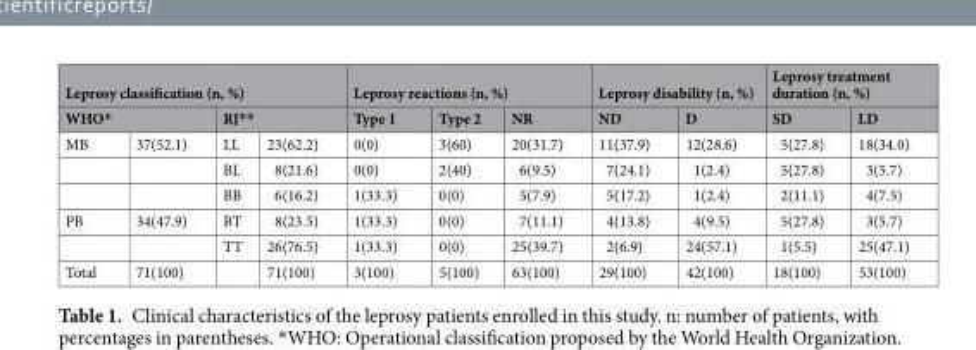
<table><thead><tr><td colspan="4">Leprosy classification (n, %)</td><td colspan="3">Leprosy reactions (n, %)</td><td colspan="2">Leprosy disability (n, %)</td><td colspan="2">Leprosy treatment duration (n, %)</td></tr><tr><td colspan="2">WHO*</td><td colspan="2">RJ**</td><td rowspan="2">Type 1 0(0)</td><td rowspan="2">Type 2 3(60)</td><td rowspan="2">NR 20(31.7)</td><td rowspan="2">ND 11(37.9)</td><td rowspan="2">D 12(28.6)</td><td rowspan="2">SD 5(27.8)</td><td rowspan="2">LD 18(34.0)</td></tr><tr><td>MB</td><td>37(52.1)</td><td>LL</td><td>23(62.2)</td></tr></thead><tbody><tr><td></td><td></td><td>BL</td><td>8(21.6)</td><td>0(0)</td><td>2(40)</td><td>6(9.5)</td><td>7(24.1)</td><td>1(2.4)</td><td>5(27.8)</td><td>3(5.7)</td></tr><tr><td></td><td></td><td>BB</td><td>6(16.2)</td><td>1(33.3)</td><td>0(0)</td><td>5(7.9)</td><td>5(17.2)</td><td>1(2.4)</td><td>2(11.1)</td><td>4(7.5)</td></tr><tr><td rowspan="2">PB</td><td>34(47.9)</td><td>BT</td><td>8(23.5)</td><td>1(33.3)</td><td>0(0)</td><td>7(11.1)</td><td>4(13.8)</td><td>4(9.5)</td><td>5(27.8)</td><td>3(5.7)</td></tr><tr><td></td><td>TT</td><td>26(76.5)</td><td>1(33.3)</td><td>0(0)</td><td>25(39.7)</td><td>2(6.9)</td><td>24(57.1)</td><td>1(5.5)</td><td>25(47.1)</td></tr><tr><td>Total</td><td>71(100)</td><td></td><td>71(100)</td><td>3(100)</td><td>5(100)</td><td>63(100)</td><td>29(100)</td><td>42(100)</td><td>18(100)</td><td>53(100)</td></tr></tbody></table>